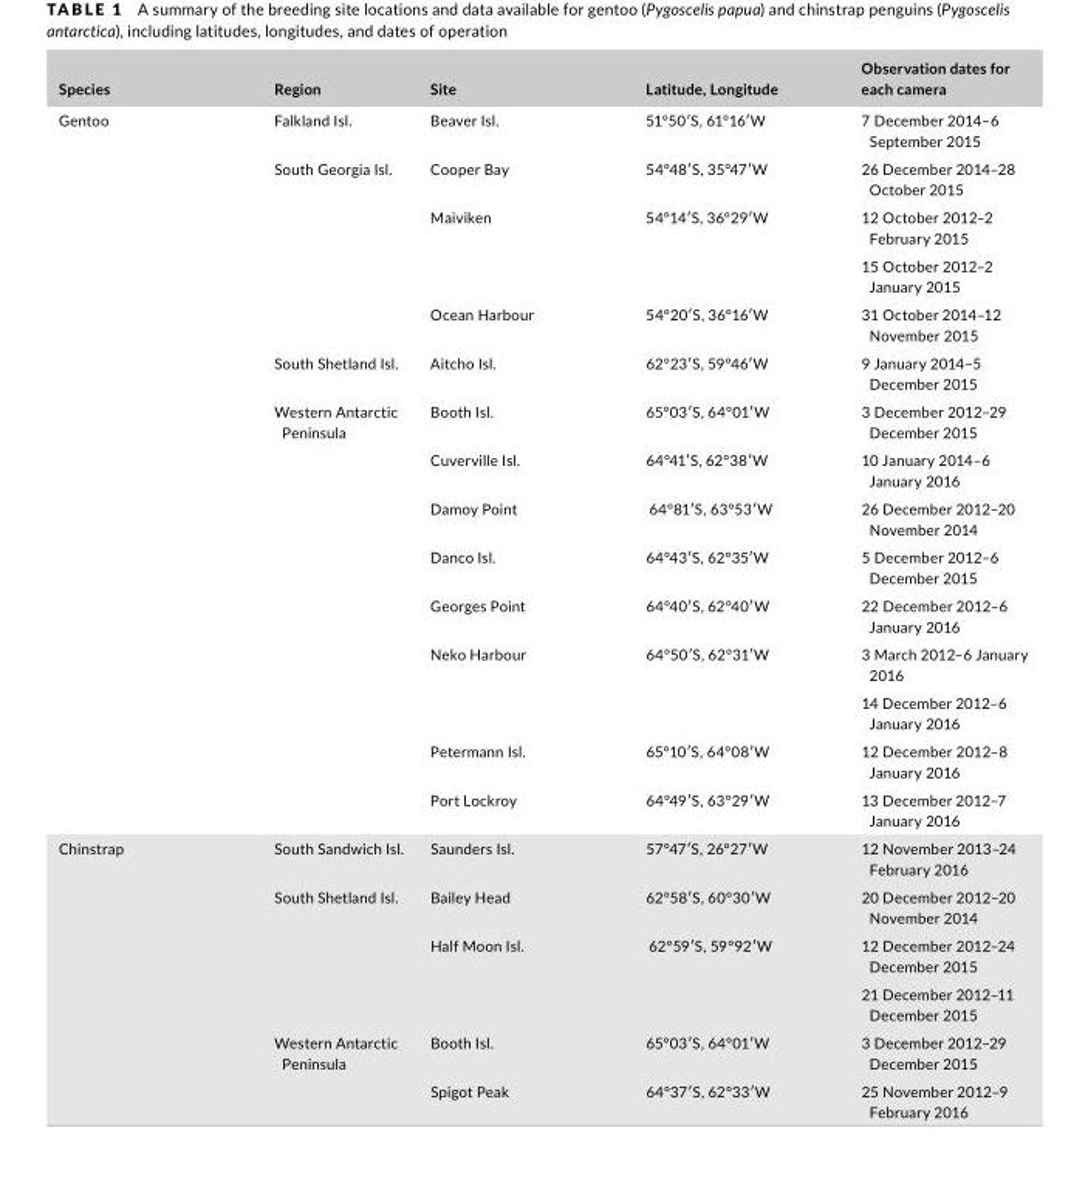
<table><thead><tr><td>Species</td><td>Region</td><td>Site</td><td>Latitude, Longitude</td><td>Observation dates for each camera</td></tr></thead><tbody><tr><td rowspan="15">Gentoo</td><td>Falkland Isl.</td><td>Beaver Isl.</td><td>51°50′S, 61°16′W</td><td>7 December 2014–6 September 2015</td></tr><tr><td rowspan="4">South Georgia Isl.</td><td>Cooper Bay</td><td>54°48′S, 35°47′W</td><td>26 December 2014–28 October 2015</td></tr><tr><td rowspan="2">Maiviken</td><td rowspan="2">54°14′S, 36°29′W</td><td>12 October 2012–2 February 2015</td></tr><tr><td>15 October 2012–2 January 2015</td></tr><tr><td>Ocean Harbour</td><td>54°20′S, 36°16′W</td><td>31 October 2014–12 November 2015</td></tr><tr><td>South Shetland Isl.</td><td>Aitcho Isl.</td><td>62°23′S, 59°46′W</td><td>9 January 2014–5 December 2015</td></tr><tr><td rowspan="9">Western Antarctic Peninsula</td><td>Booth Isl.</td><td>65°03′S, 64°01′W</td><td>3 December 2012–29 December 2015</td></tr><tr><td>Cuverville Isl.</td><td>64°41′S, 62°38′W</td><td>10 January 2014–6 January 2016</td></tr><tr><td>Damoy Point</td><td>64°81′S, 63°53′W</td><td>26 December 2012–20 November 2014</td></tr><tr><td>Danco Isl.</td><td>64°43′S, 62°35′W</td><td>5 December 2012–6 December 2015</td></tr><tr><td>Georges Point</td><td>64°40′S, 62°40′W</td><td>22 December 2012–6 January 2016</td></tr><tr><td rowspan="2">Neko Harbour</td><td rowspan="2">64°50′S, 62°31′W</td><td>3 March 2012–6 January 2016</td></tr><tr><td>14 December 2012–6 January 2016</td></tr><tr><td>Petermann Isl.</td><td>65°10′S, 64°08′W</td><td>12 December 2012–8 January 2016</td></tr><tr><td>Port Lockroy</td><td>64°49′S, 63°29′W</td><td>13 December 2012–7 January 2016</td></tr><tr><td rowspan="6">Chinstrap</td><td>South Sandwich Isl.</td><td>Saunders Isl.</td><td>57°47′S, 26°27′W</td><td>12 November 2013–24 February 2016</td></tr><tr><td rowspan="3">South Shetland Isl.</td><td>Bailey Head</td><td>62°58′S, 60°30′W</td><td>20 December 2012–20 November 2014</td></tr><tr><td rowspan="2">Half Moon Isl.</td><td rowspan="2">62°59′S, 59°92′W</td><td>12 December 2012–24 December 2015</td></tr><tr><td>21 December 2012–11 December 2015</td></tr><tr><td rowspan="2">Western Antarctic Peninsula</td><td>Booth Isl.</td><td>65°03′S, 64°01′W</td><td>3 December 2012–29 December 2015</td></tr><tr><td>Spigot Peak</td><td>64°37′S, 62°33′W</td><td>25 November 2012–9 February 2016</td></tr></tbody></table>